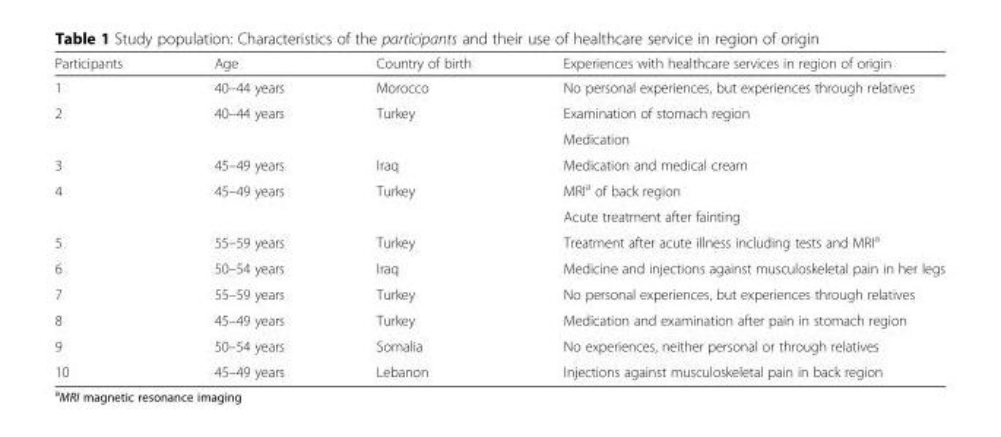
<table><thead><tr><td>Participants</td><td>Age</td><td>Country of birth</td><td>Experiences with healthcare services in region of origin</td></tr></thead><tbody><tr><td>1</td><td>40–44 years</td><td>Morocco</td><td>No personal experiences, but experiences through relatives</td></tr><tr><td rowspan="2">2</td><td rowspan="2">40–44 years</td><td rowspan="2">Turkey</td><td>Examination of stomach region</td></tr><tr><td>Medication</td></tr><tr><td>3</td><td>45–49 years</td><td>Iraq</td><td>Medication and medical cream</td></tr><tr><td rowspan="2">4</td><td rowspan="2">45–49 years</td><td rowspan="2">Turkey</td><td>MRI<sup>a</sup> of back region</td></tr><tr><td>Acute treatment after fainting</td></tr><tr><td>5</td><td>55–59 years</td><td>Turkey</td><td>Treatment after acute illness including tests and MRI<sup>a</sup></td></tr><tr><td>6</td><td>50–54 years</td><td>Iraq</td><td>Medicine and injections against musculoskeletal pain in her legs</td></tr><tr><td>7</td><td>55–59 years</td><td>Turkey</td><td>No personal experiences, but experiences through relatives</td></tr><tr><td>8</td><td>45–49 years</td><td>Turkey</td><td>Medication and examination after pain in stomach region</td></tr><tr><td>9</td><td>50–54 years</td><td>Somalia</td><td>No experiences, neither personal or through relatives</td></tr><tr><td>10</td><td>45–49 years</td><td>Lebanon</td><td>Injections against musculoskeletal pain in back region</td></tr></tbody></table>